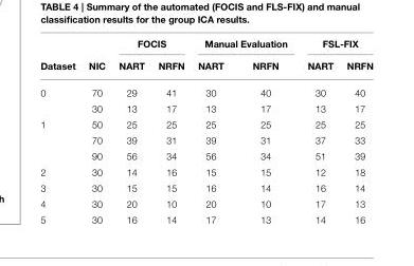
<table><thead><tr><td rowspan="2">Dataset</td><td rowspan="2">NIC</td><td colspan="2">FOCIS</td><td colspan="2">Manual Evaluation</td><td colspan="2">FSL-FIX</td></tr><tr><td>NART</td><td>NRFN</td><td>NART</td><td>NRFN</td><td>NART</td><td>NRFN</td></tr></thead><tbody><tr><td rowspan="2">0</td><td>70</td><td>29</td><td>41</td><td>30</td><td>40</td><td>30</td><td>40</td></tr><tr><td>30</td><td>13</td><td>17</td><td>13</td><td>17</td><td>13</td><td>17</td></tr><tr><td rowspan="3">1</td><td>50</td><td>25</td><td>25</td><td>25</td><td>25</td><td>25</td><td>25</td></tr><tr><td>70</td><td>39</td><td>31</td><td>39</td><td>31</td><td>37</td><td>33</td></tr><tr><td>90</td><td>56</td><td>34</td><td>56</td><td>34</td><td>51</td><td>39</td></tr><tr><td>2</td><td>30</td><td>14</td><td>16</td><td>15</td><td>15</td><td>12</td><td>18</td></tr><tr><td>3</td><td>30</td><td>15</td><td>15</td><td>16</td><td>14</td><td>16</td><td>14</td></tr><tr><td>4</td><td>30</td><td>20</td><td>10</td><td>20</td><td>10</td><td>17</td><td>13</td></tr><tr><td>5</td><td>30</td><td>16</td><td>14</td><td>17</td><td>13</td><td>14</td><td>16</td></tr></tbody></table>